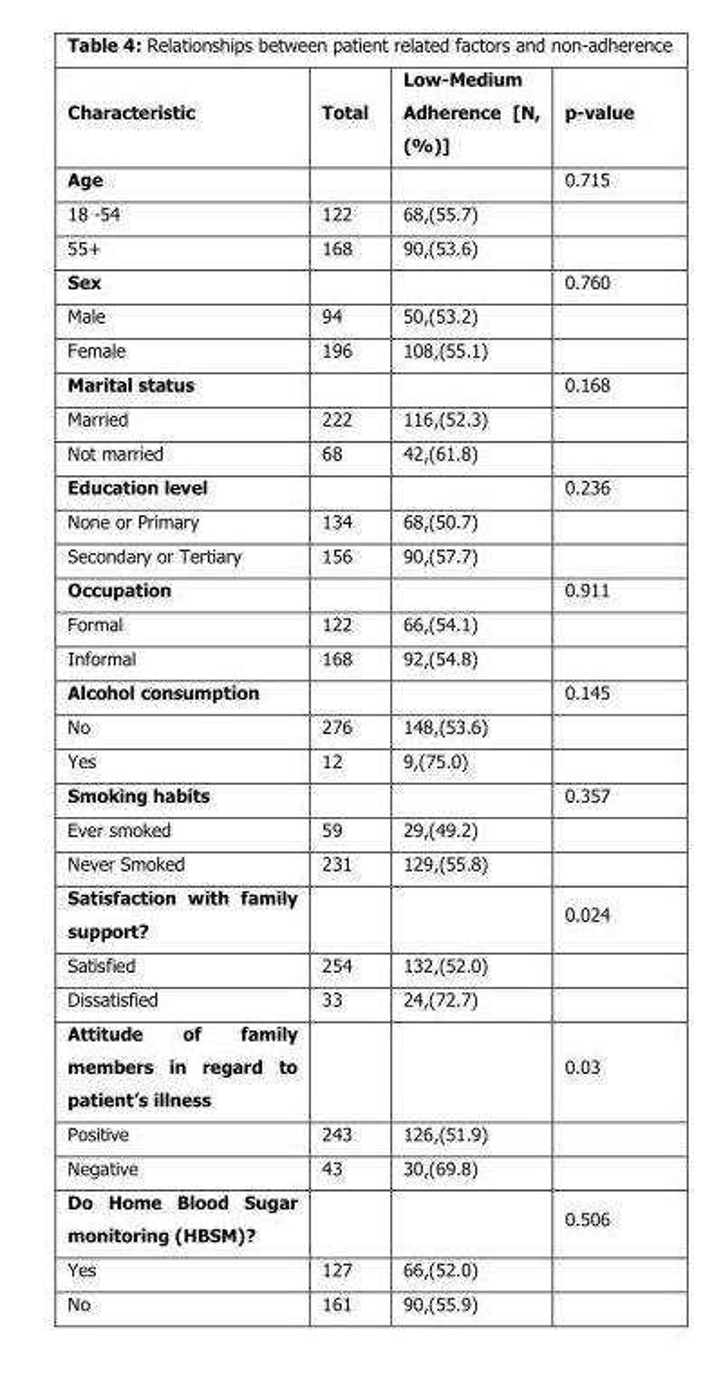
<table><thead><tr><td>Characteristic</td><td>Total</td><td>Low-Medium Adherence [N, (%)]</td><td>p-value</td></tr></thead><tbody><tr><td>Age</td><td></td><td></td><td>0.715</td></tr><tr><td>18 -54</td><td>122</td><td>68,(55.7)</td><td></td></tr><tr><td>55+</td><td>168</td><td>90,(53.6)</td><td></td></tr><tr><td>Sex</td><td></td><td></td><td>0.760</td></tr><tr><td>Male</td><td>94</td><td>50,(53.2)</td><td></td></tr><tr><td>Female</td><td>196</td><td>108,(55.1)</td><td></td></tr><tr><td>Marital status</td><td></td><td></td><td>0.168</td></tr><tr><td>Married</td><td>222</td><td>116,(52.3)</td><td></td></tr><tr><td>Not married</td><td>68</td><td>42,(61.8)</td><td></td></tr><tr><td>Education level</td><td></td><td></td><td>0.236</td></tr><tr><td>None or Primary</td><td>134</td><td>68,(50.7)</td><td></td></tr><tr><td>Secondary or Tertiary</td><td>156</td><td>90,(57.7)</td><td></td></tr><tr><td>Occupation</td><td></td><td></td><td>0.911</td></tr><tr><td>Formal</td><td>122</td><td>66,(54.1)</td><td></td></tr><tr><td>Informal</td><td>168</td><td>92,(54.8)</td><td></td></tr><tr><td>Alcohol consumption</td><td></td><td></td><td>0.145</td></tr><tr><td>No</td><td>276</td><td>148,(53.6)</td><td></td></tr><tr><td>Yes</td><td>12</td><td>9,(75.0)</td><td></td></tr><tr><td>Smoking habits</td><td></td><td></td><td>0.357</td></tr><tr><td>Ever smoked</td><td>59</td><td>29,(49.2)</td><td></td></tr><tr><td>Never Smoked</td><td>231</td><td>129,(55.8)</td><td></td></tr><tr><td>Satisfaction with family support?</td><td></td><td></td><td>0.024</td></tr><tr><td>Satisfied</td><td>254</td><td>132,(52.0)</td><td></td></tr><tr><td>Dissatisfied</td><td>33</td><td>24,(72.7)</td><td></td></tr><tr><td>Attitude of family members in regard to patient’s illness</td><td></td><td></td><td>0.03</td></tr><tr><td>Positive</td><td>243</td><td>126,(51.9)</td><td></td></tr><tr><td>Negative</td><td>43</td><td>30,(69.8)</td><td></td></tr><tr><td>Do Home Blood Sugar monitoring (HBSM)?</td><td></td><td></td><td>0.506</td></tr><tr><td>Yes</td><td>127</td><td>66,(52.0)</td><td></td></tr><tr><td>No</td><td>161</td><td>90,(55.9)</td><td></td></tr></tbody></table>